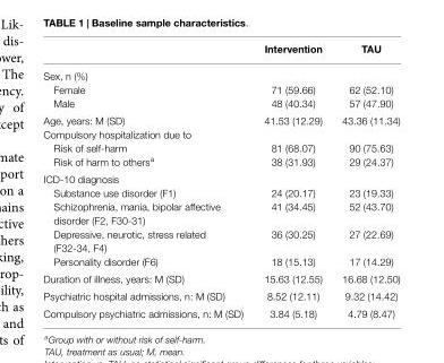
<table><thead><tr><td></td><td>Intervention</td><td>TAU</td></tr></thead><tbody><tr><td colspan="3">Sex, n (%)</td></tr><tr><td>Female</td><td>71 (59.66)</td><td>62 (52.10)</td></tr><tr><td>Male</td><td>48 (40.34)</td><td>57 (47.90)</td></tr><tr><td>Age, years: M (SD)</td><td>41.53 (12.29)</td><td>43.36 (11.34)</td></tr><tr><td colspan="3">Compulsory hospitalization due to</td></tr><tr><td>Risk of self-harm</td><td>81 (68.07)</td><td>90 (75.63)</td></tr><tr><td>Risk of harm to others<sup>a</sup></td><td>38 (31.93)</td><td>29 (24.37)</td></tr><tr><td colspan="3">ICD-10 diagnosis</td></tr><tr><td>Substance use disorder (F1)</td><td>24 (20.17)</td><td>23 (19.33)</td></tr><tr><td>Schizophrenia, mania, bipolar affective disorder (F2, F30-31)</td><td>41 (34.45)</td><td>52 (43.70)</td></tr><tr><td>Depressive, neurotic, stress related (F32-34, F4)</td><td>36 (30.25)</td><td>27 (22.69)</td></tr><tr><td>Personality disorder (F6)</td><td>18 (15.13)</td><td>17 (14.29)</td></tr><tr><td>Duration of illness, years: M (SD)</td><td>15.63 (12.55)</td><td>16.68 (12.50)</td></tr><tr><td>Psychiatric hospital admissions, n: M (SD)</td><td>8.52 (12.11)</td><td>9.32 (14.42)</td></tr><tr><td>Compulsory psychiatric admissions, n: M (SD)</td><td>3.84 (5.18)</td><td>4.79 (8.47)</td></tr></tbody></table>